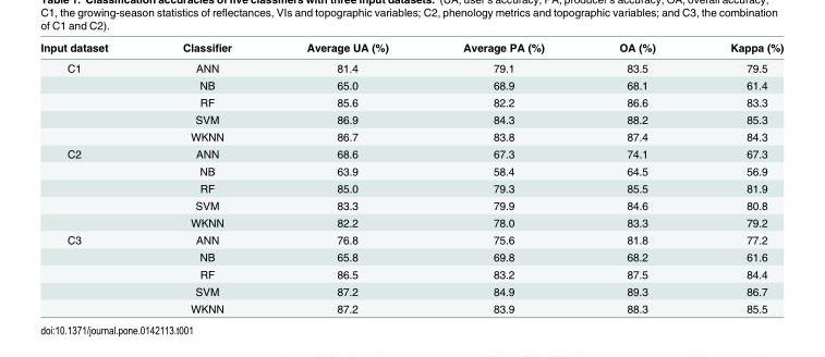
<table><thead><tr><td>Input dataset</td><td>Classifier</td><td>Average UA (%)</td><td>Average PA (%)</td><td>OA (%)</td><td>Kappa (%)</td></tr></thead><tbody><tr><td rowspan="5">C1</td><td>ANN</td><td>81.4</td><td>79.1</td><td>83.5</td><td>79.5</td></tr><tr><td>NB</td><td>65.0</td><td>68.9</td><td>68.1</td><td>61.4</td></tr><tr><td>RF</td><td>85.6</td><td>82.2</td><td>86.6</td><td>83.3</td></tr><tr><td>SVM</td><td>86.9</td><td>84.3</td><td>88.2</td><td>85.3</td></tr><tr><td>WKNN</td><td>86.7</td><td>83.8</td><td>87.4</td><td>84.3</td></tr><tr><td rowspan="5">C2</td><td>ANN</td><td>68.6</td><td>67.3</td><td>74.1</td><td>67.3</td></tr><tr><td>NB</td><td>63.9</td><td>58.4</td><td>64.5</td><td>56.9</td></tr><tr><td>RF</td><td>85.0</td><td>79.3</td><td>85.5</td><td>81.9</td></tr><tr><td>SVM</td><td>83.3</td><td>79.9</td><td>84.6</td><td>80.8</td></tr><tr><td>WKNN</td><td>82.2</td><td>78.0</td><td>83.3</td><td>79.2</td></tr><tr><td rowspan="5">C3</td><td>ANN</td><td>76.8</td><td>75.6</td><td>81.8</td><td>77.2</td></tr><tr><td>NB</td><td>65.8</td><td>69.8</td><td>68.2</td><td>61.6</td></tr><tr><td>RF</td><td>86.5</td><td>83.2</td><td>87.5</td><td>84.4</td></tr><tr><td>SVM</td><td>87.2</td><td>84.9</td><td>89.3</td><td>86.7</td></tr><tr><td>WKNN</td><td>87.2</td><td>83.9</td><td>88.3</td><td>85.5</td></tr></tbody></table>